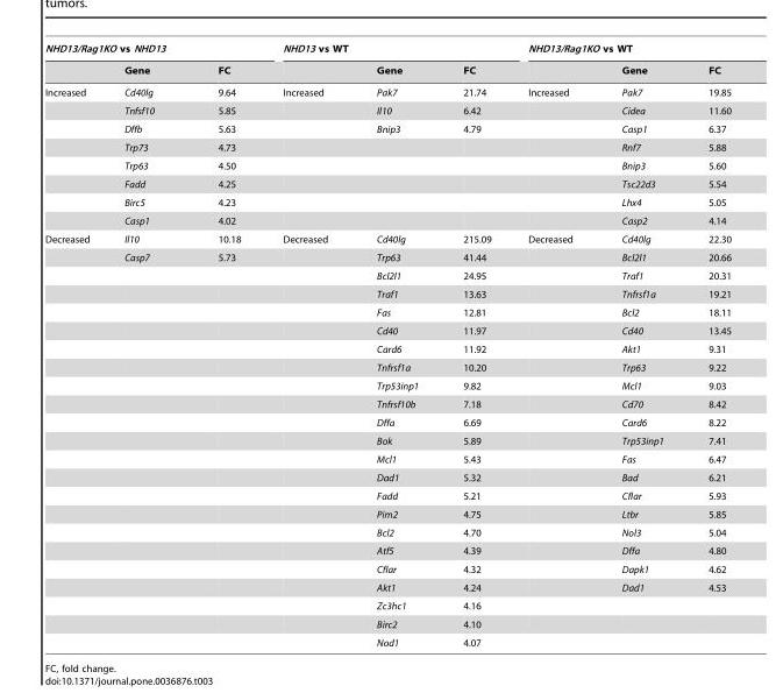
<table><thead><tr><td colspan="3">NHD13/Rag1KO vs NHD13</td><td colspan="3">NHD13 vs WT</td><td colspan="3">NHD13/Rag1KO vs WT</td></tr><tr><td></td><td>Gene</td><td>FC</td><td></td><td>Gene</td><td>FC</td><td></td><td>Gene</td><td>FC</td></tr></thead><tbody><tr><td rowspan="8">Increased</td><td>Cd40lg</td><td>9.64</td><td>Increased</td><td>Pak7</td><td>21.74</td><td>Increased</td><td>Pak7</td><td>19.85</td></tr><tr><td>Tnfsf10</td><td>5.85</td><td></td><td>Il10</td><td>6.42</td><td></td><td>Cidea</td><td>11.60</td></tr><tr><td>Dffb</td><td>5.63</td><td></td><td>Bnip3</td><td>4.79</td><td></td><td>Casp1</td><td>6.37</td></tr><tr><td>Trp73</td><td>4.73</td><td></td><td></td><td></td><td></td><td>Rnf7</td><td>5.88</td></tr><tr><td>Trp63</td><td>4.50</td><td></td><td></td><td></td><td></td><td>Bnip3</td><td>5.60</td></tr><tr><td>Fadd</td><td>4.25</td><td></td><td></td><td></td><td></td><td>Tsc22d3</td><td>5.54</td></tr><tr><td>Birc5</td><td>4.23</td><td></td><td></td><td></td><td></td><td>Lhx4</td><td>5.05</td></tr><tr><td>Casp1</td><td>4.02</td><td></td><td></td><td></td><td></td><td>Casp2</td><td>4.14</td></tr><tr><td rowspan="23">Decreased</td><td>Il10</td><td>10.18</td><td>Decreased</td><td>Cd40lg</td><td>215.09</td><td>Decreased</td><td>Cd40lg</td><td>22.30</td></tr><tr><td>Casp7</td><td>5.73</td><td></td><td>Trp63</td><td>41.44</td><td></td><td>Bcl2l1</td><td>20.66</td></tr><tr><td></td><td></td><td></td><td>Bcl2l1</td><td>24.95</td><td></td><td>Traf1</td><td>20.31</td></tr><tr><td></td><td></td><td></td><td>Traf1</td><td>13.63</td><td></td><td>Tnfrsf1a</td><td>19.21</td></tr><tr><td></td><td></td><td></td><td>Fas</td><td>12.81</td><td></td><td>Bcl2</td><td>18.11</td></tr><tr><td></td><td></td><td></td><td>Cd40</td><td>11.97</td><td></td><td>Cd40</td><td>13.45</td></tr><tr><td></td><td></td><td></td><td>Card6</td><td>11.92</td><td></td><td>Akt1</td><td>9.31</td></tr><tr><td></td><td></td><td></td><td>Tnfrsf1a</td><td>10.20</td><td></td><td>Trp63</td><td>9.22</td></tr><tr><td></td><td></td><td></td><td>Trp53inp1</td><td>9.82</td><td></td><td>Mcl1</td><td>9.03</td></tr><tr><td></td><td></td><td></td><td>Tnfrsf10b</td><td>7.18</td><td></td><td>Cd70</td><td>8.42</td></tr><tr><td></td><td></td><td></td><td>Dffa</td><td>6.69</td><td></td><td>Card6</td><td>8.22</td></tr><tr><td></td><td></td><td></td><td>Bok</td><td>5.89</td><td></td><td>Trp53inp1</td><td>7.41</td></tr><tr><td></td><td></td><td></td><td>Mcl1</td><td>5.43</td><td></td><td>Fas</td><td>6.47</td></tr><tr><td></td><td></td><td></td><td>Dad1</td><td>5.32</td><td></td><td>Bad</td><td>6.21</td></tr><tr><td></td><td></td><td></td><td>Fadd</td><td>5.21</td><td></td><td>Cflar</td><td>5.93</td></tr><tr><td></td><td></td><td></td><td>Pim2</td><td>4.75</td><td></td><td>Ltbr</td><td>5.85</td></tr><tr><td></td><td></td><td></td><td>Bcl2</td><td>4.70</td><td></td><td>Nol3</td><td>5.04</td></tr><tr><td></td><td></td><td></td><td>Atf5</td><td>4.39</td><td></td><td>Dffa</td><td>4.80</td></tr><tr><td></td><td></td><td></td><td>Cflar</td><td>4.32</td><td></td><td>Dapk1</td><td>4.62</td></tr><tr><td></td><td></td><td></td><td>Akt1</td><td>4.24</td><td></td><td>Dad1</td><td>4.53</td></tr><tr><td></td><td></td><td></td><td>Zc3hc1</td><td>4.16</td><td></td><td></td><td></td></tr><tr><td></td><td></td><td></td><td>Birc2</td><td>4.10</td><td></td><td></td><td></td></tr><tr><td></td><td></td><td></td><td>Nod1</td><td>4.07</td><td></td><td></td><td></td></tr></tbody></table>